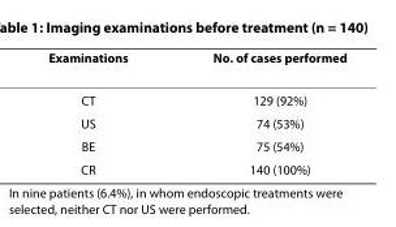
<table><thead><tr><td>Examinations</td><td>No. of cases performed</td></tr></thead><tbody><tr><td>CT</td><td>129 (92%)</td></tr><tr><td>US</td><td>74 (53%)</td></tr><tr><td>BE</td><td>75 (54%)</td></tr><tr><td>CR</td><td>140 (100%)</td></tr></tbody></table>